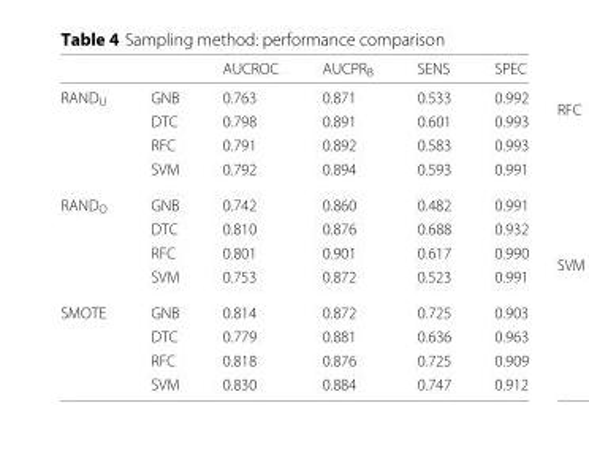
<table><thead><tr><td></td><td></td><td>AUCROC</td><td>AUCPR<sub>B</sub></td><td>SENS</td><td>SPEC</td></tr></thead><tbody><tr><td rowspan="4">RAND<sub>U</sub></td><td>GNB</td><td>0.763</td><td>0.871</td><td>0.533</td><td>0.992</td></tr><tr><td>DTC</td><td>0.798</td><td>0.891</td><td>0.601</td><td>0.993</td></tr><tr><td>RFC</td><td>0.791</td><td>0.892</td><td>0.583</td><td>0.993</td></tr><tr><td>SVM</td><td>0.792</td><td>0.894</td><td>0.593</td><td>0.991</td></tr><tr><td rowspan="4">RAND<sub>O</sub></td><td>GNB</td><td>0.742</td><td>0.860</td><td>0.482</td><td>0.991</td></tr><tr><td>DTC</td><td>0.810</td><td>0.876</td><td>0.688</td><td>0.932</td></tr><tr><td>RFC</td><td>0.801</td><td>0.901</td><td>0.617</td><td>0.990</td></tr><tr><td>SVM</td><td>0.753</td><td>0.872</td><td>0.523</td><td>0.991</td></tr><tr><td rowspan="4">SMOTE</td><td>GNB</td><td>0.814</td><td>0.872</td><td>0.725</td><td>0.903</td></tr><tr><td>DTC</td><td>0.779</td><td>0.881</td><td>0.636</td><td>0.963</td></tr><tr><td>RFC</td><td>0.818</td><td>0.876</td><td>0.725</td><td>0.909</td></tr><tr><td>SVM</td><td>0.830</td><td>0.884</td><td>0.747</td><td>0.912</td></tr></tbody></table>